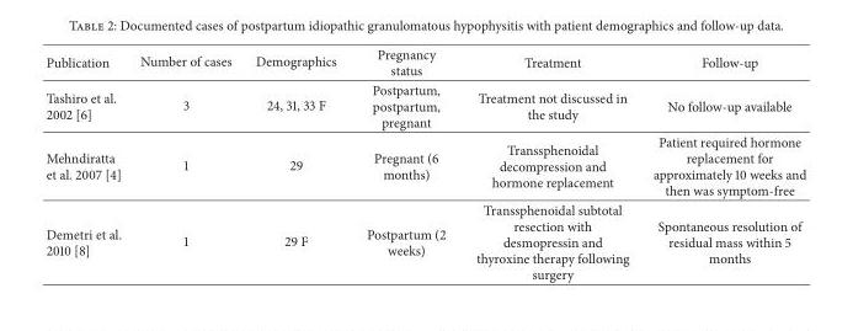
<table><thead><tr><td>Publication</td><td>Number of cases</td><td>Demographics</td><td>Pregnancy status</td><td>Treatment</td><td>Follow-up</td></tr></thead><tbody><tr><td>Tashiro et al. 2002 [6]</td><td>3</td><td>24, 31, 33 F</td><td>Postpartum, postpartum, pregnant</td><td>Treatment not discussed in the study</td><td>No follow-up available</td></tr><tr><td>Mehndiratta et al. 2007 [4]</td><td>1</td><td>29</td><td>Pregnant (6 months)</td><td>Transsphenoidal decompression and hormone replacement</td><td>Patient required hormone replacement for approximately 10 weeks and then was symptom-free</td></tr><tr><td>Demetri et al. 2010 [8]</td><td>1</td><td>29 F</td><td>Postpartum (2 weeks)</td><td>Transsphenoidal subtotal resection with desmopressin and thyroxine therapy following surgery</td><td>Spontaneous resolution of residual mass within 5 months</td></tr></tbody></table>